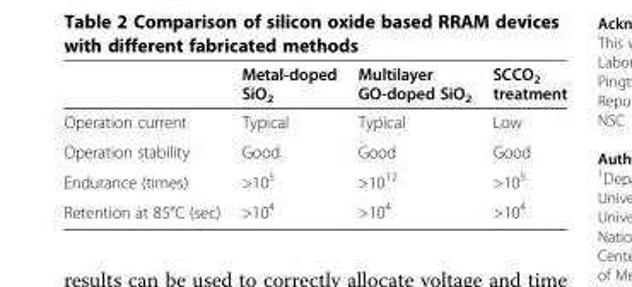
<table><thead><tr><td></td><td>Metal-doped SiO<sub>2</sub></td><td>Multilayer GO-doped SiO<sub>2</sub></td><td>SCCO<sub>2</sub> treatment</td></tr></thead><tbody><tr><td>Operation current</td><td>Typical</td><td>Typical</td><td>Low</td></tr><tr><td>Operation stability</td><td>Good</td><td>Good</td><td>Good</td></tr><tr><td>Endurance (times)</td><td>&gt;10<sup>5</sup></td><td>&gt;10<sup>12</sup></td><td>&gt;10<sup>5</sup></td></tr><tr><td>Retention at 85°C (sec)</td><td>&gt;10<sup>4</sup></td><td>&gt;10<sup>4</sup></td><td>&gt;10<sup>4</sup></td></tr></tbody></table>